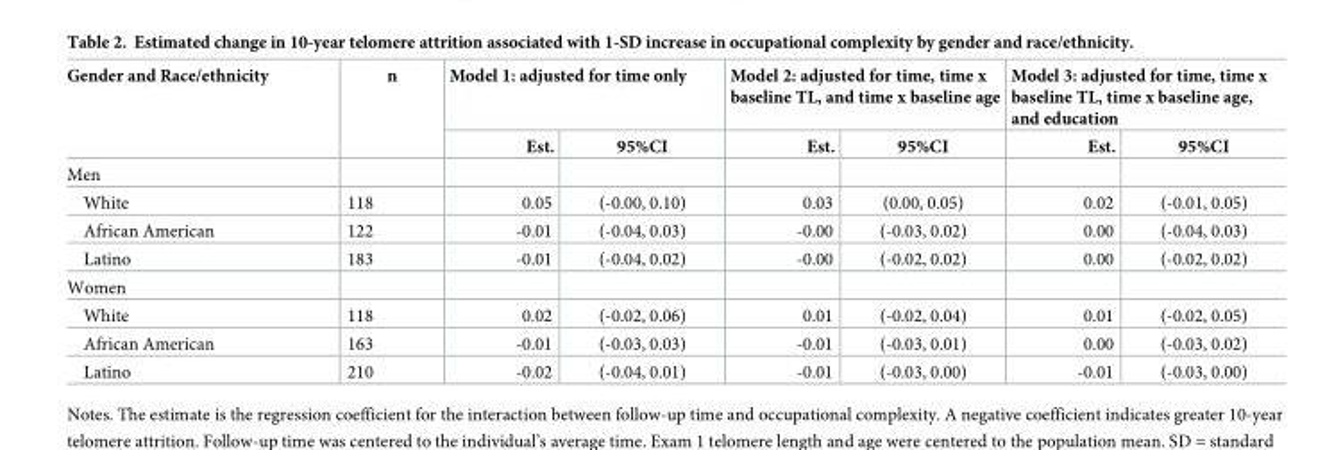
<table><thead><tr><td rowspan="2">Gender and Race/ethnicity</td><td rowspan="2">n</td><td colspan="2">Model 1: adjusted for time only</td><td colspan="2">Model 2: adjusted for time, time x baseline TL, and time x baseline age</td><td colspan="2">Model 3: adjusted for time, time x baseline TL, time x baseline age, and education</td></tr><tr><td>Est.</td><td>95%CI</td><td>Est.</td><td>95%CI</td><td>Est.</td><td>95%CI</td></tr></thead><tbody><tr><td colspan="8">Men</td></tr><tr><td>White</td><td>118</td><td>0.05</td><td>(-0.00, 0.10)</td><td>0.03</td><td>(0.00, 0.05)</td><td>0.02</td><td>(-0.01, 0.05)</td></tr><tr><td>African American</td><td>122</td><td>-0.01</td><td>(-0.04, 0.03)</td><td>-0.00</td><td>(-0.03, 0.02)</td><td>0.00</td><td>(-0.04, 0.03)</td></tr><tr><td>Latino</td><td>183</td><td>-0.01</td><td>(-0.04, 0.02)</td><td>-0.00</td><td>(-0.02, 0.02)</td><td>0.00</td><td>(-0.02, 0.02)</td></tr><tr><td colspan="8">Women</td></tr><tr><td>White</td><td>118</td><td>0.02</td><td>(-0.02, 0.06)</td><td>0.01</td><td>(-0.02, 0.04)</td><td>0.01</td><td>(-0.02, 0.05)</td></tr><tr><td>African American</td><td>163</td><td>-0.01</td><td>(-0.03, 0.03)</td><td>-0.01</td><td>(-0.03, 0.01)</td><td>0.00</td><td>(-0.03, 0.02)</td></tr><tr><td>Latino</td><td>210</td><td>-0.02</td><td>(-0.04, 0.01)</td><td>-0.01</td><td>(-0.03, 0.00)</td><td>-0.01</td><td>(-0.03, 0.00)</td></tr></tbody></table>